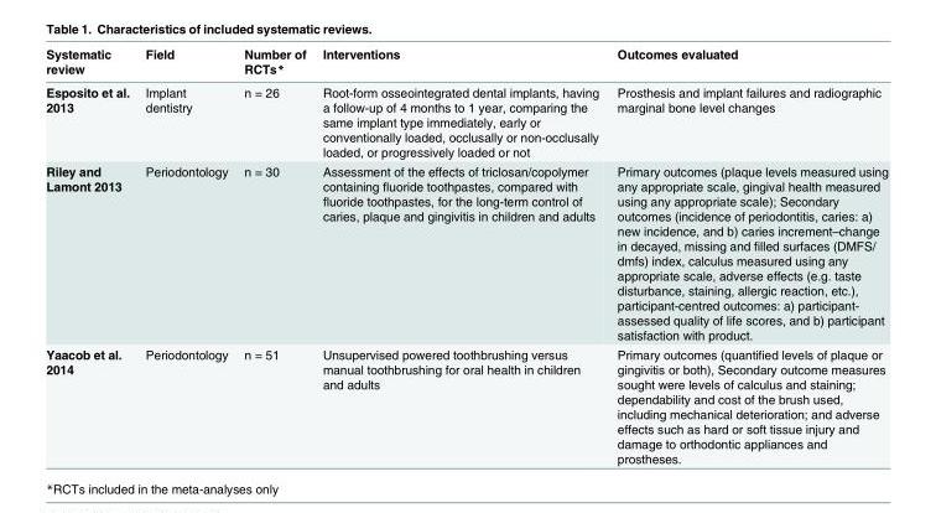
<table><thead><tr><td>Systematic review</td><td>Field</td><td>Number of RCTs*</td><td>Interventions</td><td>Outcomes evaluated</td></tr></thead><tbody><tr><td>Esposito et al. 2013</td><td>Implant dentistry</td><td>n = 26</td><td>Root-form osseointegrated dental implants, having a follow-up of 4 months to 1 year, comparing the same implant type immediately, early or conventionally loaded, occlusally or non-occlusally loaded, or progressively loaded or not</td><td>Prosthesis and implant failures and radiographic marginal bone level changes</td></tr><tr><td>Riley and Lamont 2013</td><td>Periodontology</td><td>n = 30</td><td>Assessment of the effects of triclosan/copolymer containing fluoride toothpastes, compared with fluoride toothpastes, for the long-term control of caries, plaque and gingivitis in children and adults</td><td>Primary outcomes (plaque levels measured using any appropriate scale, gingival health measured using any appropriate scale); Secondary outcomes (incidence of periodontitis, caries: a) new incidence, and b) caries increment–change in decayed, missing and filled surfaces (DMFS/ dmfs) index, calculus measured using any appropriate scale, adverse effects (e.g. taste disturbance, staining, allergic reaction, etc.), participant-centred outcomes: a) participant- assessed quality of life scores, and b) participant satisfaction with product.</td></tr><tr><td>Yaacob et al. 2014</td><td>Periodontology</td><td>n = 51</td><td>Unsupervised powered toothbrushing versus manual toothbrushing for oral health in children and adults</td><td>Primary outcomes (quantified levels of plaque or gingivitis or both), Secondary outcome measures sought were levels of calculus and staining; dependability and cost of the brush used, including mechanical deterioration; and adverse effects such as hard or soft tissue injury and damage to orthodontic appliances and prostheses.</td></tr></tbody></table>